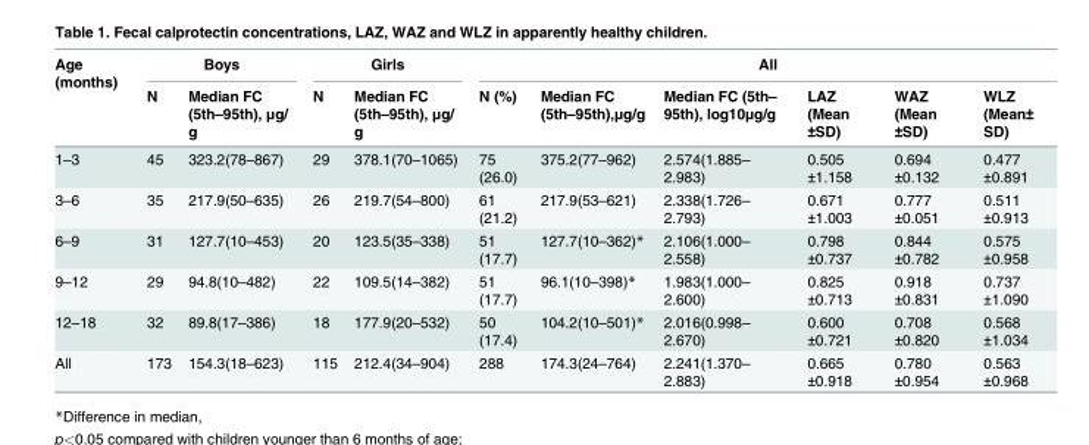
<table><thead><tr><td rowspan="2">Age (months)</td><td colspan="2">Boys</td><td colspan="2">Girls</td><td colspan="6">All</td></tr><tr><td>N</td><td>Median FC (5th–95th), μg/ g</td><td>N</td><td>Median FC (5th–95th), μg/ g</td><td>N (%)</td><td>Median FC (5th–95th),μg/g</td><td>Median FC (5th– 95th), log10μg/g</td><td>LAZ (Mean ±SD)</td><td>WAZ (Mean ±SD)</td><td>WLZ (Mean± SD)</td></tr></thead><tbody><tr><td>1–3</td><td>45</td><td>323.2(78–867)</td><td>29</td><td>378.1(70–1065)</td><td>75 (26.0)</td><td>375.2(77–962)</td><td>2.574(1.885– 2.983)</td><td>0.505 ±1.158</td><td>0.694 ±0.132</td><td>0.477 ±0.891</td></tr><tr><td>3–6</td><td>35</td><td>217.9(50–635)</td><td>26</td><td>219.7(54–800)</td><td>61 (21.2)</td><td>217.9(53–621)</td><td>2.338(1.726– 2.793)</td><td>0.671 ±1.003</td><td>0.777 ±0.051</td><td>0.511 ±0.913</td></tr><tr><td>6–9</td><td>31</td><td>127.7(10–453)</td><td>20</td><td>123.5(35–338)</td><td>51 (17.7)</td><td>127.7(10–362)*</td><td>2.106(1.000– 2.558)</td><td>0.798 ±0.737</td><td>0.844 ±0.782</td><td>0.575 ±0.958</td></tr><tr><td>9–12</td><td>29</td><td>94.8(10–482)</td><td>22</td><td>109.5(14–382)</td><td>51 (17.7)</td><td>96.1(10–398)*</td><td>1.983(1.000– 2.600)</td><td>0.825 ±0.713</td><td>0.918 ±0.831</td><td>0.737 ±1.090</td></tr><tr><td>12–18</td><td>32</td><td>89.8(17–386)</td><td>18</td><td>177.9(20–532)</td><td>50 (17.4)</td><td>104.2(10–501)*</td><td>2.016(0.998– 2.670)</td><td>0.600 ±0.721</td><td>0.708 ±0.820</td><td>0.568 ±1.034</td></tr><tr><td>All</td><td>173</td><td>154.3(18–623)</td><td>115</td><td>212.4(34–904)</td><td>288</td><td>174.3(24–764)</td><td>2.241(1.370– 2.883)</td><td>0.665 ±0.918</td><td>0.780 ±0.954</td><td>0.563 ±0.968</td></tr></tbody></table>